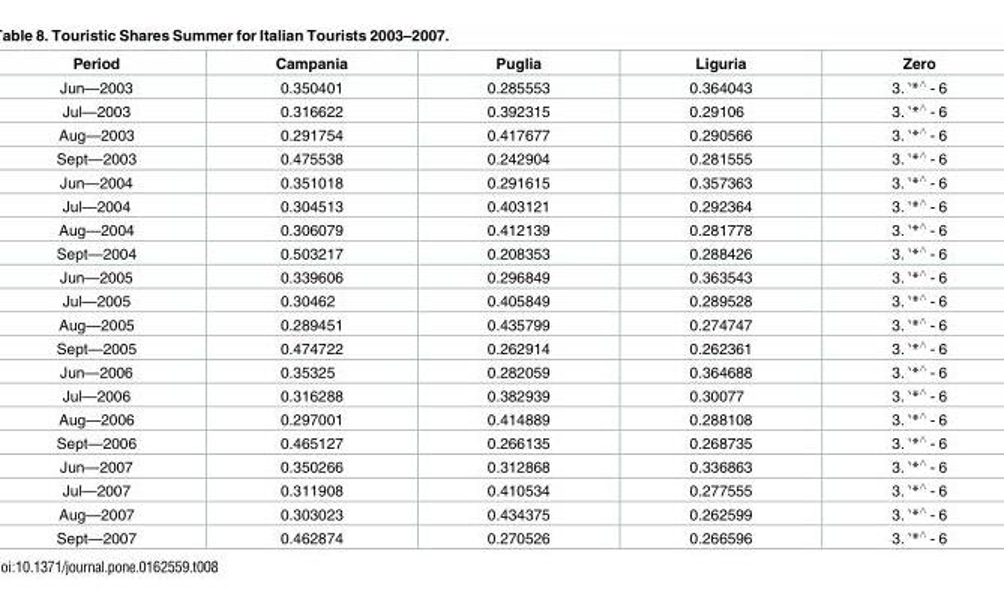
<table><thead><tr><td>Period</td><td>Campania</td><td>Puglia</td><td>Liguria</td><td>Zero</td></tr></thead><tbody><tr><td>Jun—2003</td><td>0.350401</td><td>0.285553</td><td>0.364043</td><td>3. ‵*<sup>∧</sup> - 6</td></tr><tr><td>Jul—2003</td><td>0.316622</td><td>0.392315</td><td>0.29106</td><td>3. ‵*<sup>∧</sup> - 6</td></tr><tr><td>Aug—2003</td><td>0.291754</td><td>0.417677</td><td>0.290566</td><td>3. ‵*<sup>∧</sup> - 6</td></tr><tr><td>Sept—2003</td><td>0.475538</td><td>0.242904</td><td>0.281555</td><td>3. ‵*<sup>∧</sup> - 6</td></tr><tr><td>Jun—2004</td><td>0.351018</td><td>0.291615</td><td>0.357363</td><td>3. ‵*<sup>∧</sup> - 6</td></tr><tr><td>Jul—2004</td><td>0.304513</td><td>0.403121</td><td>0.292364</td><td>3. ‵*<sup>∧</sup> - 6</td></tr><tr><td>Aug—2004</td><td>0.306079</td><td>0.412139</td><td>0.281778</td><td>3. ‵*<sup>∧</sup> - 6</td></tr><tr><td>Sept—2004</td><td>0.503217</td><td>0.208353</td><td>0.288426</td><td>3. ‵*<sup>∧</sup> - 6</td></tr><tr><td>Jun—2005</td><td>0.339606</td><td>0.296849</td><td>0.363543</td><td>3. ‵*<sup>∧</sup> - 6</td></tr><tr><td>Jul—2005</td><td>0.30462</td><td>0.405849</td><td>0.289528</td><td>3. ‵*<sup>∧</sup> - 6</td></tr><tr><td>Aug—2005</td><td>0.289451</td><td>0.435799</td><td>0.274747</td><td>3. ‵*<sup>∧</sup> - 6</td></tr><tr><td>Sept—2005</td><td>0.474722</td><td>0.262914</td><td>0.262361</td><td>3. ‵*<sup>∧</sup> - 6</td></tr><tr><td>Jun—2006</td><td>0.35325</td><td>0.282059</td><td>0.364688</td><td>3. ‵*<sup>∧</sup> - 6</td></tr><tr><td>Jul—2006</td><td>0.316288</td><td>0.382939</td><td>0.30077</td><td>3. ‵*<sup>∧</sup> - 6</td></tr><tr><td>Aug—2006</td><td>0.297001</td><td>0.414889</td><td>0.288108</td><td>3. ‵*<sup>∧</sup> - 6</td></tr><tr><td>Sept—2006</td><td>0.465127</td><td>0.266135</td><td>0.268735</td><td>3. ‵*<sup>∧</sup> - 6</td></tr><tr><td>Jun—2007</td><td>0.350266</td><td>0.312868</td><td>0.336863</td><td>3. ‵*<sup>∧</sup> - 6</td></tr><tr><td>Jul—2007</td><td>0.311908</td><td>0.410534</td><td>0.277555</td><td>3. ‵*<sup>∧</sup> - 6</td></tr><tr><td>Aug—2007</td><td>0.303023</td><td>0.434375</td><td>0.262599</td><td>3. ‵*<sup>∧</sup> - 6</td></tr><tr><td>Sept—2007</td><td>0.462874</td><td>0.270526</td><td>0.266596</td><td>3. ‵*<sup>∧</sup> - 6</td></tr></tbody></table>